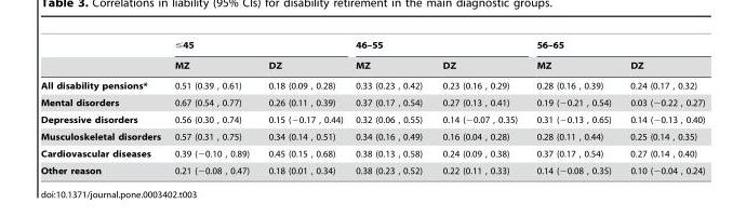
<table><thead><tr><td rowspan="2"></td><td colspan="2">≤45</td><td colspan="2">46–55</td><td colspan="2">56–65</td></tr><tr><td>MZ</td><td>DZ</td><td>MZ</td><td>DZ</td><td>MZ</td><td>DZ</td></tr></thead><tbody><tr><td>All disability pensions*</td><td>0.51 (0.39 , 0.61)</td><td>0.18 (0.09 , 0.28)</td><td>0.33 (0.23 , 0.42)</td><td>0.23 (0.16 , 0.29)</td><td>0.28 (0.16 , 0.39)</td><td>0.24 (0.17 , 0.32)</td></tr><tr><td>Mental disorders</td><td>0.67 (0.54 , 0.77)</td><td>0.26 (0.11 , 0.39)</td><td>0.37 (0.17 , 0.54)</td><td>0.27 (0.13 , 0.41)</td><td>0.19 (−0.21 , 0.54)</td><td>0.03 (−0.22 , 0.27)</td></tr><tr><td>Depressive disorders</td><td>0.56 (0.30 , 0.74)</td><td>0.15 (−0.17 , 0.44)</td><td>0.32 (0.06 , 0.55)</td><td>0.14 (−0.07 , 0.35)</td><td>0.31 (−0.13 , 0.65)</td><td>0.14 (−0.13 , 0.40)</td></tr><tr><td>Musculoskeletal disorders</td><td>0.57 (0.31 , 0.75)</td><td>0.34 (0.14 , 0.51)</td><td>0.34 (0.16 , 0.49)</td><td>0.16 (0.04 , 0.28)</td><td>0.28 (0.11 , 0.44)</td><td>0.25 (0.14 , 0.35)</td></tr><tr><td>Cardiovascular diseases</td><td>0.39 (−0.10 , 0.89)</td><td>0.45 (0.15 , 0.68)</td><td>0.38 (0.13 , 0.58)</td><td>0.24 (0.09 , 0.38)</td><td>0.37 (0.17 , 0.54)</td><td>0.27 (0.14 , 0.40)</td></tr><tr><td>Other reason</td><td>0.21 (−0.08 , 0.47)</td><td>0.18 (0.01 , 0.34)</td><td>0.38 (0.23 , 0.52)</td><td>0.22 (0.11 , 0.33)</td><td>0.14 (−0.08 , 0.35)</td><td>0.10 (−0.04 , 0.24)</td></tr></tbody></table>